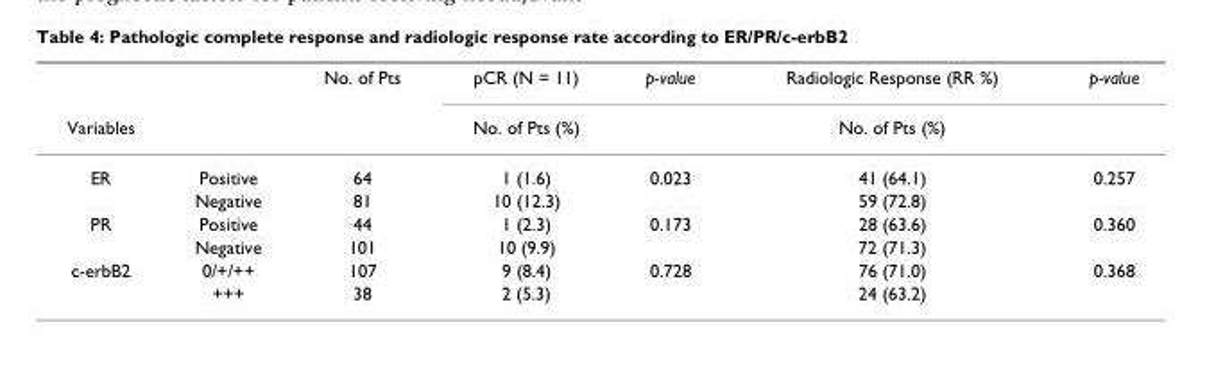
<table><thead><tr><td rowspan="2">Variables</td><td rowspan="2"></td><td rowspan="2">No. of Pts</td><td rowspan="2">pCR (N = 11) No. of Pts (%)</td><td rowspan="2">p-value</td><td rowspan="2">Radiologic Response (RR %) No. of Pts (%)</td><td rowspan="2">p-value</td></tr><tr></tr></thead><tbody><tr><td rowspan="2">ER</td><td>Positive</td><td>64</td><td>1 (1.6)</td><td>0.023</td><td>41 (64.1)</td><td>0.257</td></tr><tr><td>Negative</td><td>81</td><td>10 (12.3)</td><td></td><td>59 (72.8)</td><td></td></tr><tr><td rowspan="2">PR</td><td>Positive</td><td>44</td><td>1 (2.3)</td><td>0.173</td><td>28 (63.6)</td><td>0.360</td></tr><tr><td>Negative</td><td>101</td><td>10 (9.9)</td><td></td><td>72 (71.3)</td><td></td></tr><tr><td rowspan="2">c-erbB2</td><td>0/+/++</td><td>107</td><td>9 (8.4)</td><td>0.728</td><td>76 (71.0)</td><td>0.368</td></tr><tr><td>+++</td><td>38</td><td>2 (5.3)</td><td></td><td>24 (63.2)</td><td></td></tr></tbody></table>